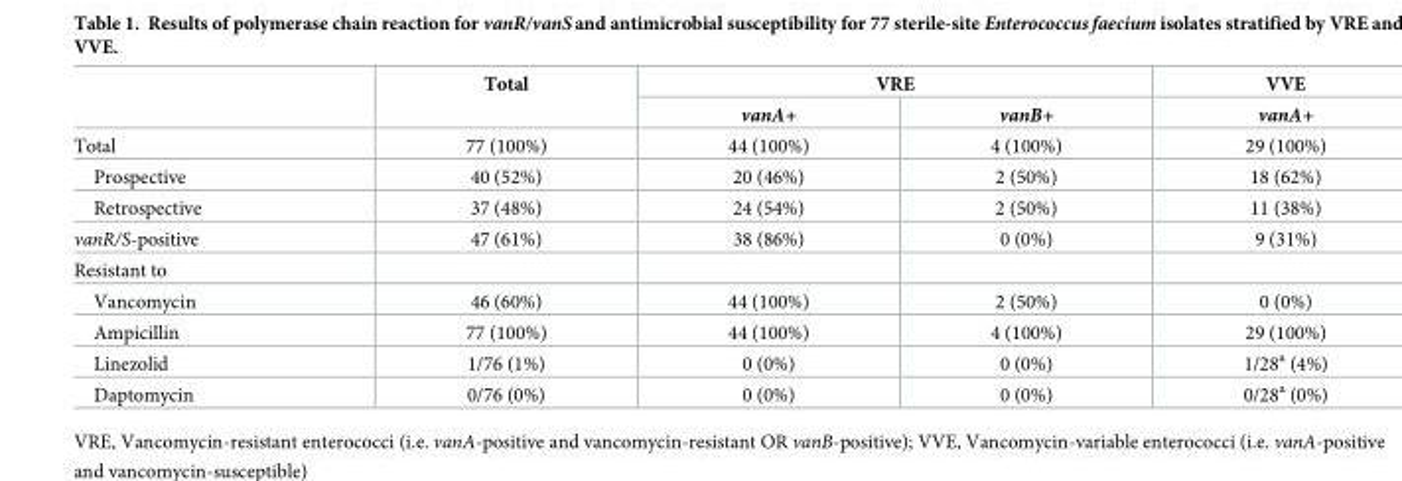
<table><thead><tr><td rowspan="2"></td><td rowspan="2">Total</td><td colspan="2">VRE</td><td rowspan="2">VVE vanA+</td></tr><tr><td>vanA+</td><td>vanB+</td></tr></thead><tbody><tr><td>Total</td><td>77 (100%)</td><td>44 (100%)</td><td>4 (100%)</td><td>29 (100%)</td></tr><tr><td>Prospective</td><td>40 (52%)</td><td>20 (46%)</td><td>2 (50%)</td><td>18 (62%)</td></tr><tr><td>Retrospective</td><td>37 (48%)</td><td>24 (54%)</td><td>2 (50%)</td><td>11 (38%)</td></tr><tr><td>vanR/S-positive</td><td>47 (61%)</td><td>38 (86%)</td><td>0 (0%)</td><td>9 (31%)</td></tr><tr><td colspan="5">Resistant to</td></tr><tr><td>Vancomycin</td><td>46 (60%)</td><td>44 (100%)</td><td>2 (50%)</td><td>0 (0%)</td></tr><tr><td>Ampicillin</td><td>77 (100%)</td><td>44 (100%)</td><td>4 (100%)</td><td>29 (100%)</td></tr><tr><td>Linezolid</td><td>1/76 (1%)</td><td>0 (0%)</td><td>0 (0%)</td><td>1/28<sup>a</sup> (4%)</td></tr><tr><td>Daptomycin</td><td>0/76 (0%)</td><td>0 (0%)</td><td>0 (0%)</td><td>0/28<sup>a</sup> (0%)</td></tr></tbody></table>